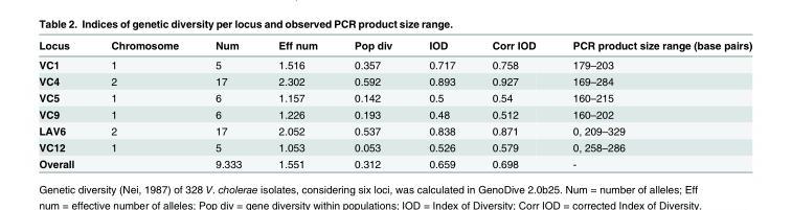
<table><thead><tr><td>Locus</td><td>Chromosome</td><td>Num</td><td>Eff num</td><td>Pop div</td><td>IOD</td><td>Corr IOD</td><td>PCR product size range (base pairs)</td></tr></thead><tbody><tr><td>VC1</td><td>1</td><td>5</td><td>1.516</td><td>0.357</td><td>0.717</td><td>0.758</td><td>179–203</td></tr><tr><td>VC4</td><td>2</td><td>17</td><td>2.302</td><td>0.592</td><td>0.893</td><td>0.927</td><td>169–284</td></tr><tr><td>VC5</td><td>1</td><td>6</td><td>1.157</td><td>0.142</td><td>0.5</td><td>0.54</td><td>160–215</td></tr><tr><td>VC9</td><td>1</td><td>6</td><td>1.226</td><td>0.193</td><td>0.48</td><td>0.512</td><td>160–202</td></tr><tr><td>LAV6</td><td>2</td><td>17</td><td>2.052</td><td>0.537</td><td>0.838</td><td>0.871</td><td>0, 209–329</td></tr><tr><td>VC12</td><td>1</td><td>5</td><td>1.053</td><td>0.053</td><td>0.526</td><td>0.579</td><td>0, 258–286</td></tr><tr><td>Overall</td><td></td><td>9.333</td><td>1.551</td><td>0.312</td><td>0.659</td><td>0.698</td><td>-</td></tr></tbody></table>